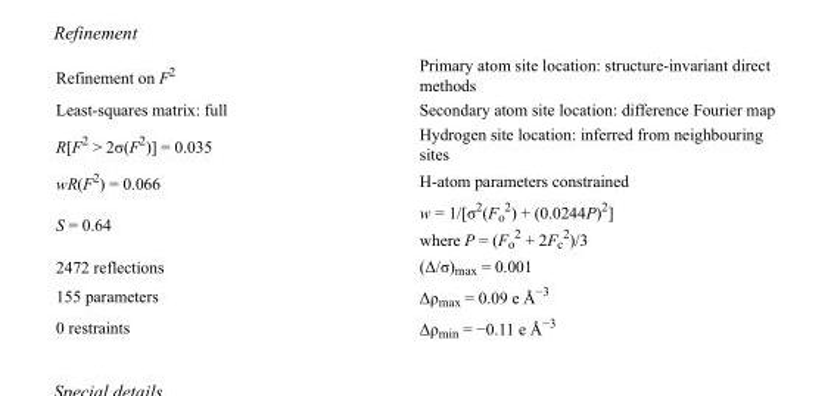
<table><tbody><tr><td>Refinement on F<sup>2</sup></td><td>Primary atom site location: structure-invariant direct methods</td></tr><tr><td>Least-squares matrix: full</td><td>Secondary atom site location: difference Fourier map</td></tr><tr><td>R[F<sup>2</sup> &gt; 2σ(F<sup>2</sup>)] = 0.035</td><td>Hydrogen site location: inferred from neighbouring sites</td></tr><tr><td>wR(F<sup>2</sup>) = 0.066</td><td>H-atom parameters constrained</td></tr><tr><td>S = 0.64</td><td>w = 1/[σ<sup>2</sup>(F<sub>o</sub> <sup>2</sup>) + (0.0244P)<sup>2</sup>] where P = (F<sub>o</sub> <sup>2</sup> + 2F<sub>c</sub> <sup>2</sup>)/3</td></tr><tr><td>2472 reflections</td><td>(Δ/σ)<sub>max</sub> = 0.001</td></tr><tr><td>155 parameters</td><td>Δρ<sub>max</sub> = 0.09 e Å<sup>−3</sup></td></tr><tr><td>0 restraints</td><td>Δρ<sub>min</sub> = −0.11 e Å<sup>−3</sup></td></tr></tbody></table>